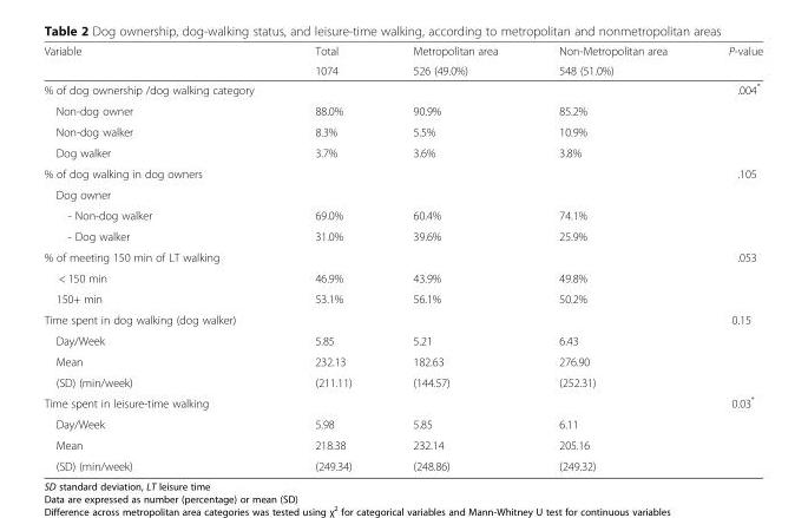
<table><thead><tr><td rowspan="2">Variable</td><td rowspan="2">Total 1074</td><td rowspan="2">Metropolitan area 526 (49.0%)</td><td rowspan="2">Non-Metropolitan area 548 (51.0%)</td><td rowspan="2">P-value</td></tr><tr></tr></thead><tbody><tr><td>% of dog ownership /dog walking category</td><td></td><td></td><td></td><td>.004*</td></tr><tr><td>Non-dog owner</td><td>88.0%</td><td>90.9%</td><td>85.2%</td><td></td></tr><tr><td>Non-dog walker</td><td>8.3%</td><td>5.5%</td><td>10.9%</td><td></td></tr><tr><td>Dog walker</td><td>3.7%</td><td>3.6%</td><td>3.8%</td><td></td></tr><tr><td>% of dog walking in dog owners</td><td></td><td></td><td></td><td>.105</td></tr><tr><td colspan="5">Dog owner</td></tr><tr><td>- Non-dog walker</td><td>69.0%</td><td>60.4%</td><td>74.1%</td><td></td></tr><tr><td>- Dog walker</td><td>31.0%</td><td>39.6%</td><td>25.9%</td><td></td></tr><tr><td>% of meeting 150 min of LT walking</td><td></td><td></td><td></td><td>.053</td></tr><tr><td>&lt; 150 min</td><td>46.9%</td><td>43.9%</td><td>49.8%</td><td></td></tr><tr><td>150+ min</td><td>53.1%</td><td>56.1%</td><td>50.2%</td><td></td></tr><tr><td>Time spent in dog walking (dog walker)</td><td></td><td></td><td></td><td>0.15</td></tr><tr><td>Day/Week</td><td>5.85</td><td>5.21</td><td>6.43</td><td></td></tr><tr><td>Mean</td><td>232.13</td><td>182.63</td><td>276.90</td><td></td></tr><tr><td>(SD) (min/week)</td><td>(211.11)</td><td>(144.57)</td><td>(252.31)</td><td></td></tr><tr><td>Time spent in leisure-time walking</td><td></td><td></td><td></td><td>0.03*</td></tr><tr><td>Day/Week</td><td>5.98</td><td>5.85</td><td>6.11</td><td></td></tr><tr><td>Mean</td><td>218.38</td><td>232.14</td><td>205.16</td><td></td></tr><tr><td>(SD) (min/week)</td><td>(249.34)</td><td>(248.86)</td><td>(249.32)</td><td></td></tr></tbody></table>